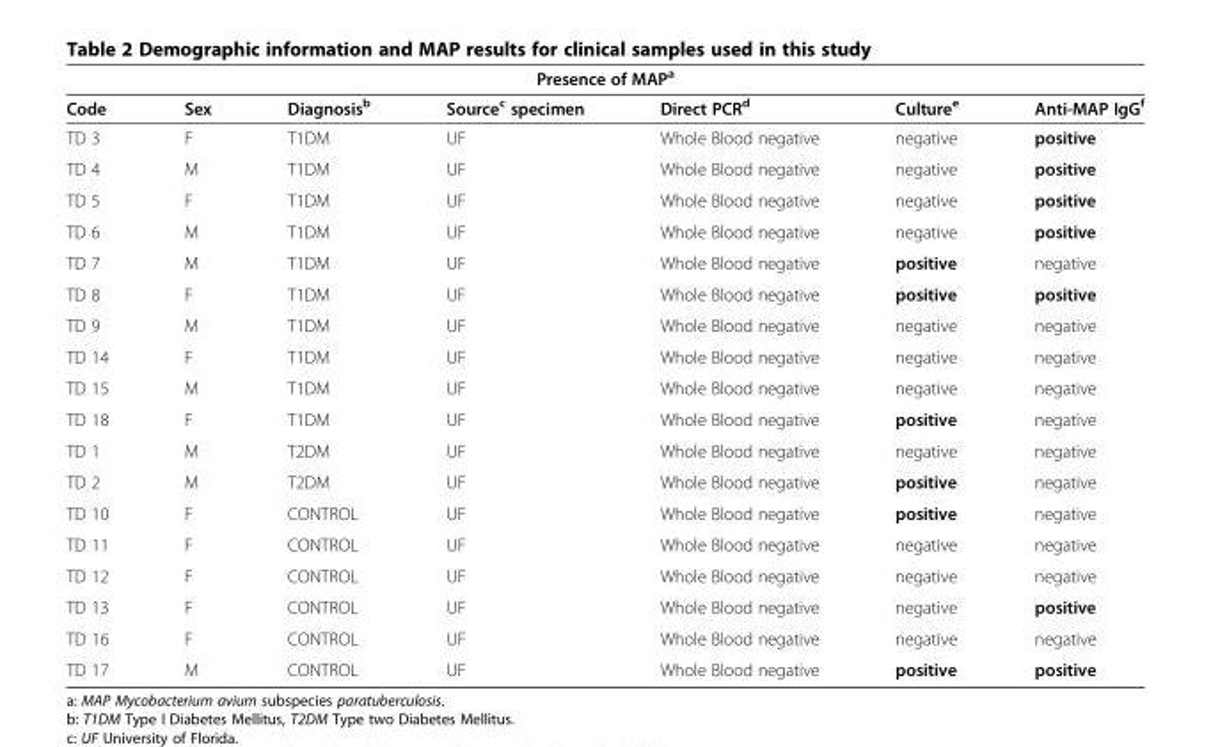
<table><thead><tr><td colspan="7">Presence of MAP<sup>a</sup></td></tr><tr><td>Code</td><td>Sex</td><td>Diagnosis<sup>b</sup></td><td>Source<sup>c</sup> specimen</td><td>Direct PCR<sup>d</sup></td><td>Culture<sup>e</sup></td><td>Anti-MAP IgG<sup>f</sup></td></tr></thead><tbody><tr><td>TD 3</td><td>F</td><td>T1DM</td><td>UF</td><td>Whole Blood negative</td><td>negative</td><td>positive</td></tr><tr><td>TD 4</td><td>M</td><td>T1DM</td><td>UF</td><td>Whole Blood negative</td><td>negative</td><td>positive</td></tr><tr><td>TD 5</td><td>F</td><td>T1DM</td><td>UF</td><td>Whole Blood negative</td><td>negative</td><td>positive</td></tr><tr><td>TD 6</td><td>M</td><td>T1DM</td><td>UF</td><td>Whole Blood negative</td><td>negative</td><td>positive</td></tr><tr><td>TD 7</td><td>M</td><td>T1DM</td><td>UF</td><td>Whole Blood negative</td><td>positive</td><td>negative</td></tr><tr><td>TD 8</td><td>F</td><td>T1DM</td><td>UF</td><td>Whole Blood negative</td><td>positive</td><td>positive</td></tr><tr><td>TD 9</td><td>M</td><td>T1DM</td><td>UF</td><td>Whole Blood negative</td><td>negative</td><td>negative</td></tr><tr><td>TD 14</td><td>F</td><td>T1DM</td><td>UF</td><td>Whole Blood negative</td><td>negative</td><td>negative</td></tr><tr><td>TD 15</td><td>M</td><td>T1DM</td><td>UF</td><td>Whole Blood negative</td><td>negative</td><td>negative</td></tr><tr><td>TD 18</td><td>F</td><td>T1DM</td><td>UF</td><td>Whole Blood negative</td><td>positive</td><td>negative</td></tr><tr><td>TD 1</td><td>M</td><td>T2DM</td><td>UF</td><td>Whole Blood negative</td><td>negative</td><td>negative</td></tr><tr><td>TD 2</td><td>M</td><td>T2DM</td><td>UF</td><td>Whole Blood negative</td><td>positive</td><td>negative</td></tr><tr><td>TD 10</td><td>F</td><td>CONTROL</td><td>UF</td><td>Whole Blood negative</td><td>positive</td><td>negative</td></tr><tr><td>TD 11</td><td>F</td><td>CONTROL</td><td>UF</td><td>Whole Blood negative</td><td>negative</td><td>negative</td></tr><tr><td>TD 12</td><td>F</td><td>CONTROL</td><td>UF</td><td>Whole Blood negative</td><td>negative</td><td>negative</td></tr><tr><td>TD 13</td><td>F</td><td>CONTROL</td><td>UF</td><td>Whole Blood negative</td><td>negative</td><td>positive</td></tr><tr><td>TD 16</td><td>F</td><td>CONTROL</td><td>UF</td><td>Whole Blood negative</td><td>negative</td><td>negative</td></tr><tr><td>TD 17</td><td>M</td><td>CONTROL</td><td>UF</td><td>Whole Blood negative</td><td>positive</td><td>positive</td></tr></tbody></table>